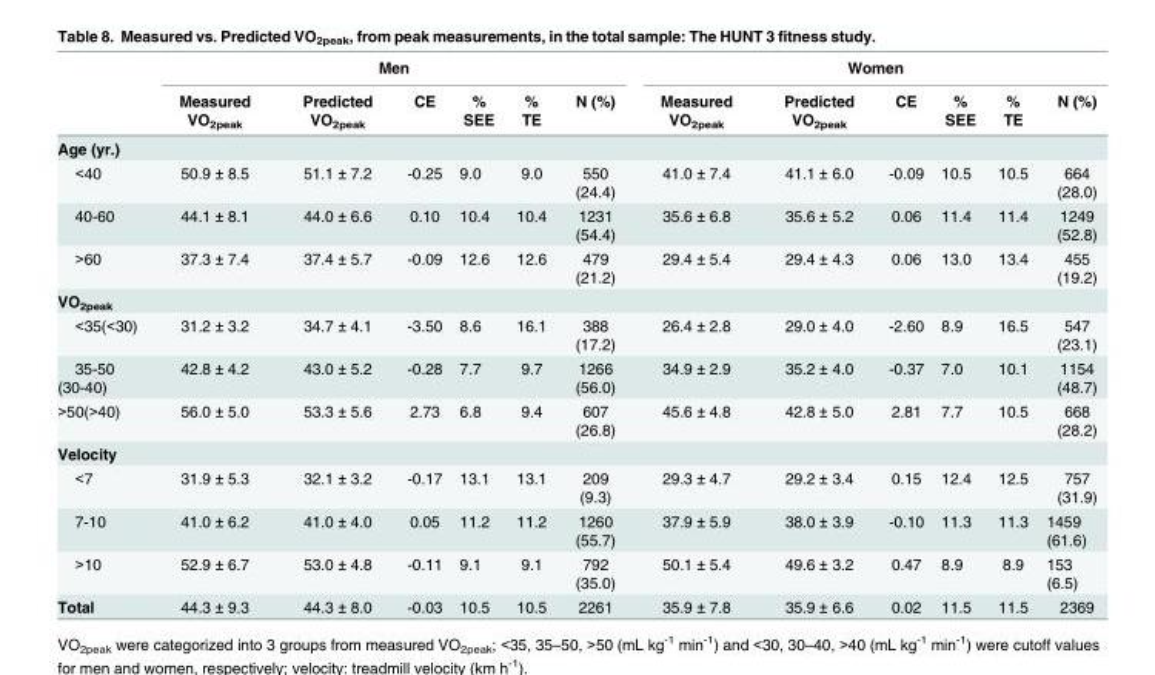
<table><thead><tr><td rowspan="2"></td><td colspan="6">Men</td><td colspan="6">Women</td></tr><tr><td>Measured VO<sub>2peak</sub></td><td>Predicted VO<sub>2peak</sub></td><td>CE</td><td>% SEE</td><td>% TE</td><td>N (%)</td><td>Measured VO<sub>2peak</sub></td><td>Predicted VO<sub>2peak</sub></td><td>CE</td><td>% SEE</td><td>% TE</td><td>N (%)</td></tr></thead><tbody><tr><td colspan="13">Age (yr.)</td></tr><tr><td>&lt;40</td><td>50.9 ± 8.5</td><td>51.1 ± 7.2</td><td>-0.25</td><td>9.0</td><td>9.0</td><td>550 (24.4)</td><td>41.0 ± 7.4</td><td>41.1 ± 6.0</td><td>-0.09</td><td>10.5</td><td>10.5</td><td>664 (28.0)</td></tr><tr><td>40-60</td><td>44.1 ± 8.1</td><td>44.0 ± 6.6</td><td>0.10</td><td>10.4</td><td>10.4</td><td>1231 (54.4)</td><td>35.6 ± 6.8</td><td>35.6 ± 5.2</td><td>0.06</td><td>11.4</td><td>11.4</td><td>1249 (52.8)</td></tr><tr><td>&gt;60</td><td>37.3 ± 7.4</td><td>37.4 ± 5.7</td><td>-0.09</td><td>12.6</td><td>12.6</td><td>479 (21.2)</td><td>29.4 ± 5.4</td><td>29.4 ± 4.3</td><td>0.06</td><td>13.0</td><td>13.4</td><td>455 (19.2)</td></tr><tr><td colspan="13">VO<sub>2peak</sub></td></tr><tr><td>&lt;35(&lt;30)</td><td>31.2 ± 3.2</td><td>34.7 ± 4.1</td><td>-3.50</td><td>8.6</td><td>16.1</td><td>388 (17.2)</td><td>26.4 ± 2.8</td><td>29.0 ± 4.0</td><td>-2.60</td><td>8.9</td><td>16.5</td><td>547 (23.1)</td></tr><tr><td>35-50 (30-40)</td><td>42.8 ± 4.2</td><td>43.0 ± 5.2</td><td>-0.28</td><td>7.7</td><td>9.7</td><td>1266 (56.0)</td><td>34.9 ± 2.9</td><td>35.2 ± 4.0</td><td>-0.37</td><td>7.0</td><td>10.1</td><td>1154 (48.7)</td></tr><tr><td>&gt;50(&gt;40)</td><td>56.0 ± 5.0</td><td>53.3 ± 5.6</td><td>2.73</td><td>6.8</td><td>9.4</td><td>607 (26.8)</td><td>45.6 ± 4.8</td><td>42.8 ± 5.0</td><td>2.81</td><td>7.7</td><td>10.5</td><td>668 (28.2)</td></tr><tr><td colspan="13">Velocity</td></tr><tr><td>&lt;7</td><td>31.9 ± 5.3</td><td>32.1 ± 3.2</td><td>-0.17</td><td>13.1</td><td>13.1</td><td>209 (9.3)</td><td>29.3 ± 4.7</td><td>29.2 ± 3.4</td><td>0.15</td><td>12.4</td><td>12.5</td><td>757 (31.9)</td></tr><tr><td>7-10</td><td>41.0 ± 6.2</td><td>41.0 ± 4.0</td><td>0.05</td><td>11.2</td><td>11.2</td><td>1260 (55.7)</td><td>37.9 ± 5.9</td><td>38.0 ± 3.9</td><td>-0.10</td><td>11.3</td><td>11.3</td><td>1459 (61.6)</td></tr><tr><td>&gt;10</td><td>52.9 ± 6.7</td><td>53.0 ± 4.8</td><td>-0.11</td><td>9.1</td><td>9.1</td><td>792 (35.0)</td><td>50.1 ± 5.4</td><td>49.6 ± 3.2</td><td>0.47</td><td>8.9</td><td>8.9</td><td>153 (6.5)</td></tr><tr><td>Total</td><td>44.3 ± 9.3</td><td>44.3 ± 8.0</td><td>-0.03</td><td>10.5</td><td>10.5</td><td>2261</td><td>35.9 ± 7.8</td><td>35.9 ± 6.6</td><td>0.02</td><td>11.5</td><td>11.5</td><td>2369</td></tr></tbody></table>